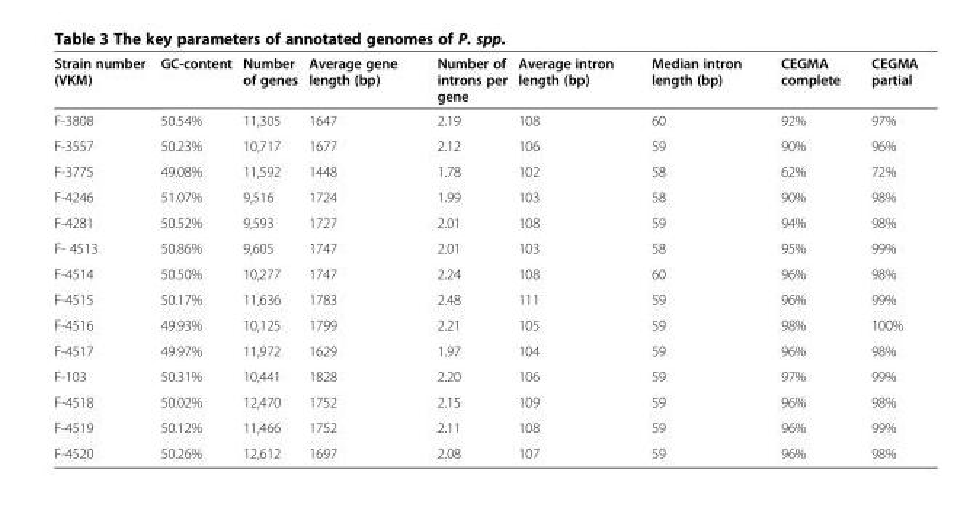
<table><thead><tr><td>Strain number (VKM)</td><td>GC-content</td><td>Number of genes</td><td>Average gene length (bp)</td><td>Number of introns per gene</td><td>Average intron length (bp)</td><td>Median intron length (bp)</td><td>CEGMA complete</td><td>CEGMA partial</td></tr></thead><tbody><tr><td>F-3808</td><td>50.54%</td><td>11,305</td><td>1647</td><td>2.19</td><td>108</td><td>60</td><td>92%</td><td>97%</td></tr><tr><td>F-3557</td><td>50.23%</td><td>10,717</td><td>1677</td><td>2.12</td><td>106</td><td>59</td><td>90%</td><td>96%</td></tr><tr><td>F-3775</td><td>49.08%</td><td>11,592</td><td>1448</td><td>1.78</td><td>102</td><td>58</td><td>62%</td><td>72%</td></tr><tr><td>F-4246</td><td>51.07%</td><td>9,516</td><td>1724</td><td>1.99</td><td>103</td><td>58</td><td>90%</td><td>98%</td></tr><tr><td>F-4281</td><td>50.52%</td><td>9,593</td><td>1727</td><td>2.01</td><td>108</td><td>59</td><td>94%</td><td>98%</td></tr><tr><td>F- 4513</td><td>50.86%</td><td>9,605</td><td>1747</td><td>2.01</td><td>103</td><td>58</td><td>95%</td><td>99%</td></tr><tr><td>F-4514</td><td>50.50%</td><td>10,277</td><td>1747</td><td>2.24</td><td>108</td><td>60</td><td>96%</td><td>98%</td></tr><tr><td>F-4515</td><td>50.17%</td><td>11,636</td><td>1783</td><td>2.48</td><td>111</td><td>59</td><td>96%</td><td>99%</td></tr><tr><td>F-4516</td><td>49.93%</td><td>10,125</td><td>1799</td><td>2.21</td><td>105</td><td>59</td><td>98%</td><td>100%</td></tr><tr><td>F-4517</td><td>49.97%</td><td>11,972</td><td>1629</td><td>1.97</td><td>104</td><td>59</td><td>96%</td><td>98%</td></tr><tr><td>F-103</td><td>50.31%</td><td>10,441</td><td>1828</td><td>2.20</td><td>106</td><td>59</td><td>97%</td><td>99%</td></tr><tr><td>F-4518</td><td>50.02%</td><td>12,470</td><td>1752</td><td>2.15</td><td>109</td><td>59</td><td>96%</td><td>98%</td></tr><tr><td>F-4519</td><td>50.12%</td><td>11,466</td><td>1752</td><td>2.11</td><td>108</td><td>59</td><td>96%</td><td>99%</td></tr><tr><td>F-4520</td><td>50.26%</td><td>12,612</td><td>1697</td><td>2.08</td><td>107</td><td>59</td><td>96%</td><td>98%</td></tr></tbody></table>